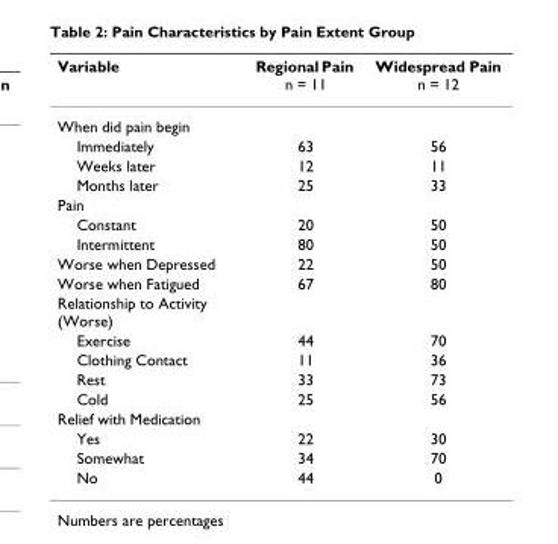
<table><thead><tr><td>Variable</td><td>Regional Pain n = 11</td><td>Widespread Pain n = 12</td></tr></thead><tbody><tr><td colspan="3">When did pain begin</td></tr><tr><td>Immediately</td><td>63</td><td>56</td></tr><tr><td>Weeks later</td><td>12</td><td>11</td></tr><tr><td>Months later</td><td>25</td><td>33</td></tr><tr><td colspan="3">Pain</td></tr><tr><td>Constant</td><td>20</td><td>50</td></tr><tr><td>Intermittent</td><td>80</td><td>50</td></tr><tr><td>Worse when Depressed</td><td>22</td><td>50</td></tr><tr><td>Worse when Fatigued</td><td>67</td><td>80</td></tr><tr><td colspan="3">Relationship to Activity (Worse)</td></tr><tr><td>Exercise</td><td>44</td><td>70</td></tr><tr><td>Clothing Contact</td><td>11</td><td>36</td></tr><tr><td>Rest</td><td>33</td><td>73</td></tr><tr><td>Cold</td><td>25</td><td>56</td></tr><tr><td colspan="3">Relief with Medication</td></tr><tr><td>Yes</td><td>22</td><td>30</td></tr><tr><td>Somewhat</td><td>34</td><td>70</td></tr><tr><td>No</td><td>44</td><td>0</td></tr></tbody></table>